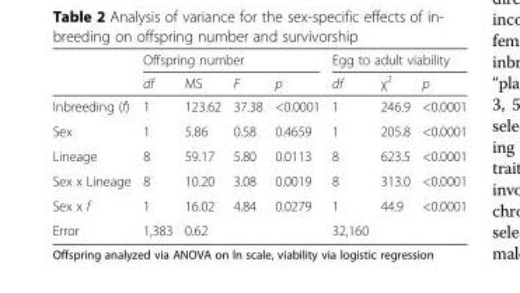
<table><thead><tr><td rowspan="2"></td><td colspan="4">Offspring number</td><td colspan="3">Egg to adult viability</td></tr><tr><td>df</td><td>MS</td><td>F</td><td>p</td><td>df</td><td>χ<sup>2</sup></td><td>p</td></tr></thead><tbody><tr><td>Inbreeding (f)</td><td>1</td><td>123.62</td><td>37.38</td><td>&lt;0.0001</td><td>1</td><td>246.9</td><td>&lt;0.0001</td></tr><tr><td>Sex</td><td>1</td><td>5.86</td><td>0.58</td><td>0.4659</td><td>1</td><td>205.8</td><td>&lt;0.0001</td></tr><tr><td>Lineage</td><td>8</td><td>59.17</td><td>5.80</td><td>0.0113</td><td>8</td><td>623.5</td><td>&lt;0.0001</td></tr><tr><td>Sex x Lineage</td><td>8</td><td>10.20</td><td>3.08</td><td>0.0019</td><td>8</td><td>313.0</td><td>&lt;0.0001</td></tr><tr><td>Sex x f</td><td>1</td><td>16.02</td><td>4.84</td><td>0.0279</td><td>1</td><td>44.9</td><td>&lt;0.0001</td></tr><tr><td>Error</td><td>1,383</td><td>0.62</td><td></td><td></td><td>32,160</td><td></td><td></td></tr></tbody></table>